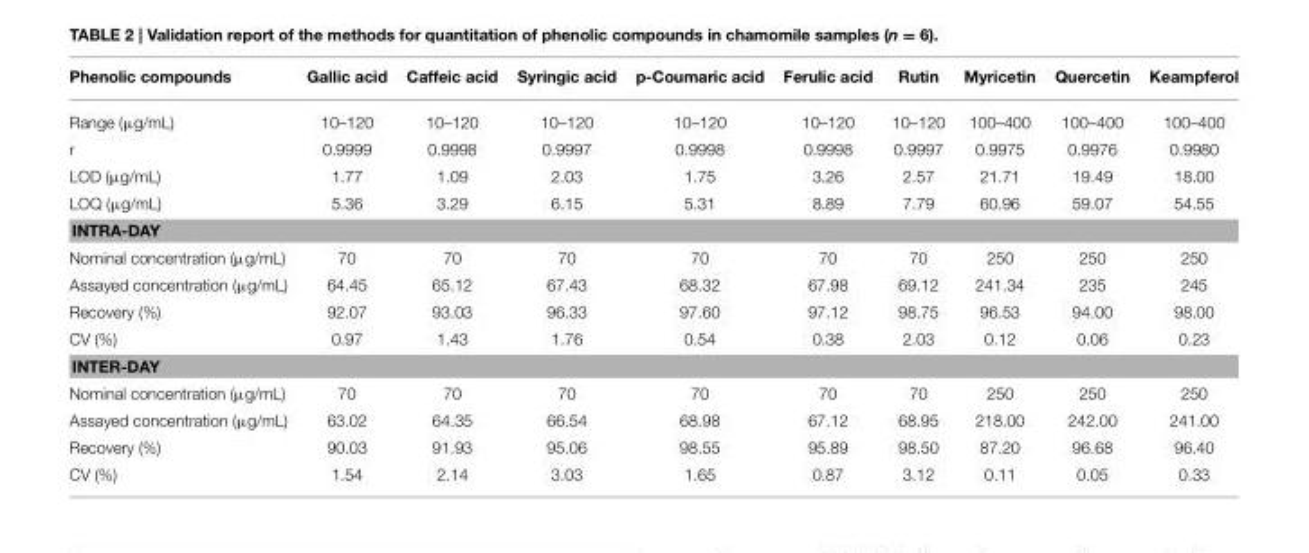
<table><thead><tr><td>Phenolic compounds</td><td>Gallic acid</td><td>Caffeic acid</td><td>Syringic acid</td><td>p-Coumaric acid</td><td>Ferulic acid</td><td>Rutin</td><td>Myricetin</td><td>Quercetin</td><td>Keampferol</td></tr></thead><tbody><tr><td>Range (µg/mL)</td><td>10–120</td><td>10–120</td><td>10–120</td><td>10–120</td><td>10–120</td><td>10–120</td><td>100–400</td><td>100–400</td><td>100–400</td></tr><tr><td>r</td><td>0.9999</td><td>0.9998</td><td>0.9997</td><td>0.9998</td><td>0.9998</td><td>0.9997</td><td>0.9975</td><td>0.9976</td><td>0.9980</td></tr><tr><td>LOD (µg/mL)</td><td>1.77</td><td>1.09</td><td>2.03</td><td>1.75</td><td>3.26</td><td>2.57</td><td>21.71</td><td>19.49</td><td>18.00</td></tr><tr><td>LOQ (µg/mL)</td><td>5.36</td><td>3.29</td><td>6.15</td><td>5.31</td><td>8.89</td><td>7.79</td><td>60.96</td><td>59.07</td><td>54.55</td></tr><tr><td colspan="10">INTRA-DAY</td></tr><tr><td>Nominal concentration (µg/mL)</td><td>70</td><td>70</td><td>70</td><td>70</td><td>70</td><td>70</td><td>250</td><td>250</td><td>250</td></tr><tr><td>Assayed concentration (µg/mL)</td><td>64.45</td><td>65.12</td><td>67.43</td><td>68.32</td><td>67.98</td><td>69.12</td><td>241.34</td><td>235</td><td>245</td></tr><tr><td>Recovery (%)</td><td>92.07</td><td>93.03</td><td>96.33</td><td>97.60</td><td>97.12</td><td>98.75</td><td>96.53</td><td>94.00</td><td>98.00</td></tr><tr><td>CV (%)</td><td>0.97</td><td>1.43</td><td>1.76</td><td>0.54</td><td>0.38</td><td>2.03</td><td>0.12</td><td>0.06</td><td>0.23</td></tr><tr><td colspan="10">INTER-DAY</td></tr><tr><td>Nominal concentration (µg/mL)</td><td>70</td><td>70</td><td>70</td><td>70</td><td>70</td><td>70</td><td>250</td><td>250</td><td>250</td></tr><tr><td>Assayed concentration (µg/mL)</td><td>63.02</td><td>64.35</td><td>66.54</td><td>68.98</td><td>67.12</td><td>68.95</td><td>218.00</td><td>242.00</td><td>241.00</td></tr><tr><td>Recovery (%)</td><td>90.03</td><td>91.93</td><td>95.06</td><td>98.55</td><td>95.89</td><td>98.50</td><td>87.20</td><td>96.68</td><td>96.40</td></tr><tr><td>CV (%)</td><td>1.54</td><td>2.14</td><td>3.03</td><td>1.65</td><td>0.87</td><td>3.12</td><td>0.11</td><td>0.05</td><td>0.33</td></tr></tbody></table>